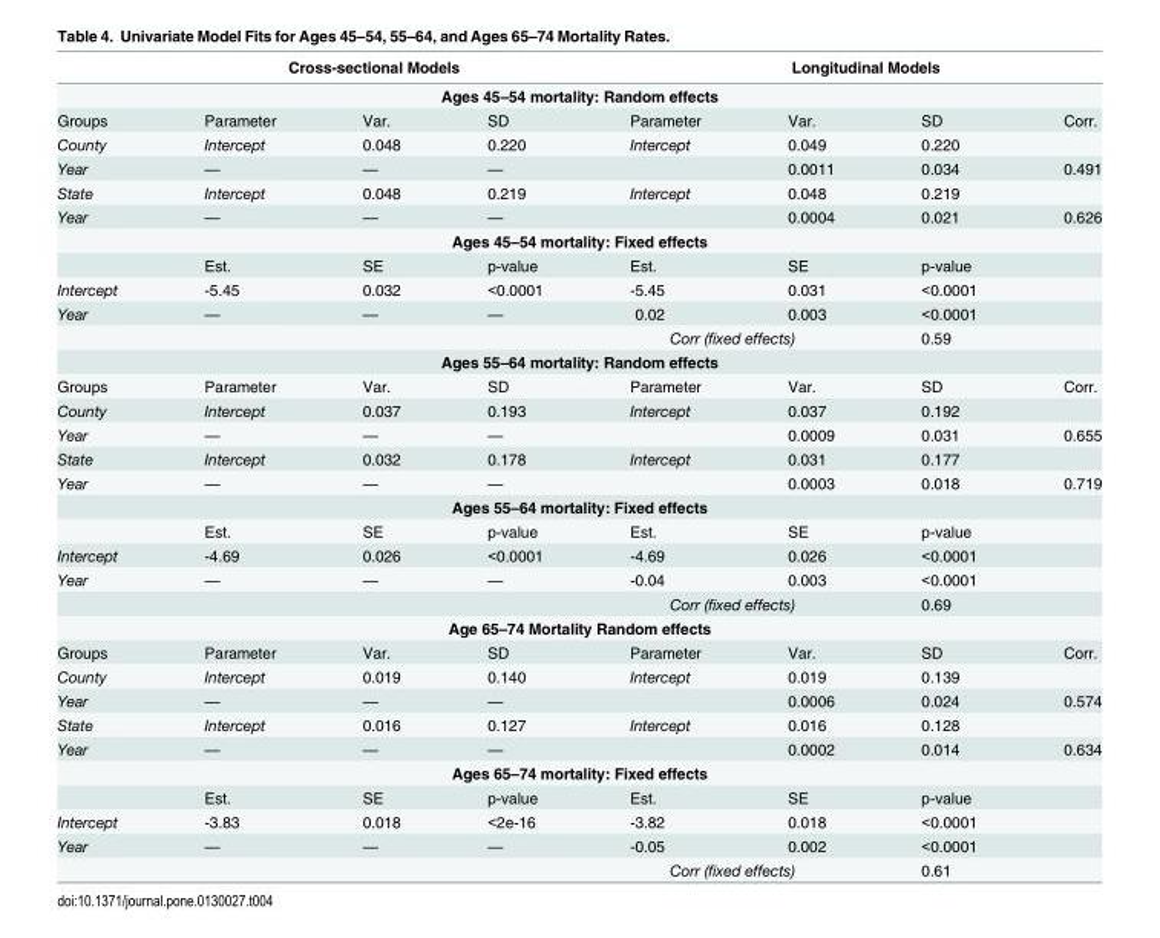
<table><thead><tr><td></td><td colspan="3">Cross-sectional Models</td><td colspan="4">Longitudinal Models</td></tr><tr><td colspan="8">Ages 45–54 mortality: Random effects</td></tr><tr><td>Groups</td><td>Parameter</td><td>Var.</td><td>SD</td><td>Parameter</td><td>Var.</td><td>SD</td><td>Corr.</td></tr></thead><tbody><tr><td>County</td><td>Intercept</td><td>0.048</td><td>0.220</td><td>Intercept</td><td>0.049</td><td>0.220</td><td></td></tr><tr><td>Year</td><td>—</td><td>—</td><td>—</td><td></td><td>0.0011</td><td>0.034</td><td>0.491</td></tr><tr><td>State</td><td>Intercept</td><td>0.048</td><td>0.219</td><td>Intercept</td><td>0.048</td><td>0.219</td><td></td></tr><tr><td>Year</td><td>—</td><td>—</td><td>—</td><td></td><td>0.0004</td><td>0.021</td><td>0.626</td></tr><tr><td colspan="8">Ages 45–54 mortality: Fixed effects</td></tr><tr><td></td><td>Est.</td><td>SE</td><td>p-value</td><td>Est.</td><td>SE</td><td>p-value</td><td></td></tr><tr><td>Intercept</td><td>-5.45</td><td>0.032</td><td>&lt;0.0001</td><td>-5.45</td><td>0.031</td><td>&lt;0.0001</td><td></td></tr><tr><td rowspan="2">Year</td><td>—</td><td>—</td><td>—</td><td>0.02</td><td>0.003</td><td>&lt;0.0001</td><td></td></tr><tr><td></td><td></td><td></td><td colspan="2">Corr (fixed effects)</td><td>0.59</td><td></td></tr><tr><td colspan="8">Ages 55–64 mortality: Random effects</td></tr><tr><td>Groups</td><td>Parameter</td><td>Var.</td><td>SD</td><td>Parameter</td><td>Var.</td><td>SD</td><td>Corr.</td></tr><tr><td>County</td><td>Intercept</td><td>0.037</td><td>0.193</td><td>Intercept</td><td>0.037</td><td>0.192</td><td></td></tr><tr><td>Year</td><td>—</td><td>—</td><td>—</td><td></td><td>0.0009</td><td>0.031</td><td>0.655</td></tr><tr><td>State</td><td>Intercept</td><td>0.032</td><td>0.178</td><td>Intercept</td><td>0.031</td><td>0.177</td><td></td></tr><tr><td>Year</td><td>—</td><td>—</td><td>—</td><td></td><td>0.0003</td><td>0.018</td><td>0.719</td></tr><tr><td colspan="8">Ages 55–64 mortality: Fixed effects</td></tr><tr><td></td><td>Est.</td><td>SE</td><td>p-value</td><td>Est.</td><td>SE</td><td>p-value</td><td></td></tr><tr><td>Intercept</td><td>-4.69</td><td>0.026</td><td>&lt;0.0001</td><td>-4.69</td><td>0.026</td><td>&lt;0.0001</td><td></td></tr><tr><td rowspan="2">Year</td><td>—</td><td>—</td><td>—</td><td>-0.04</td><td>0.003</td><td>&lt;0.0001</td><td></td></tr><tr><td></td><td></td><td></td><td colspan="2">Corr (fixed effects)</td><td>0.69</td><td></td></tr><tr><td colspan="8">Age 65–74 Mortality Random effects</td></tr><tr><td>Groups</td><td>Parameter</td><td>Var.</td><td>SD</td><td>Parameter</td><td>Var.</td><td>SD</td><td>Corr.</td></tr><tr><td>County</td><td>Intercept</td><td>0.019</td><td>0.140</td><td>Intercept</td><td>0.019</td><td>0.139</td><td></td></tr><tr><td>Year</td><td>—</td><td>—</td><td>—</td><td></td><td>0.0006</td><td>0.024</td><td>0.574</td></tr><tr><td>State</td><td>Intercept</td><td>0.016</td><td>0.127</td><td>Intercept</td><td>0.016</td><td>0.128</td><td></td></tr><tr><td>Year</td><td>—</td><td>—</td><td>—</td><td></td><td>0.0002</td><td>0.014</td><td>0.634</td></tr><tr><td colspan="8">Ages 65–74 mortality: Fixed effects</td></tr><tr><td></td><td>Est.</td><td>SE</td><td>p-value</td><td>Est.</td><td>SE</td><td>p-value</td><td></td></tr><tr><td>Intercept</td><td>-3.83</td><td>0.018</td><td>&lt;2e-16</td><td>-3.82</td><td>0.018</td><td>&lt;0.0001</td><td></td></tr><tr><td rowspan="2">Year</td><td>—</td><td>—</td><td>—</td><td>-0.05</td><td>0.002</td><td>&lt;0.0001</td><td></td></tr><tr><td></td><td></td><td></td><td colspan="2">Corr (fixed effects)</td><td>0.61</td><td></td></tr></tbody></table>